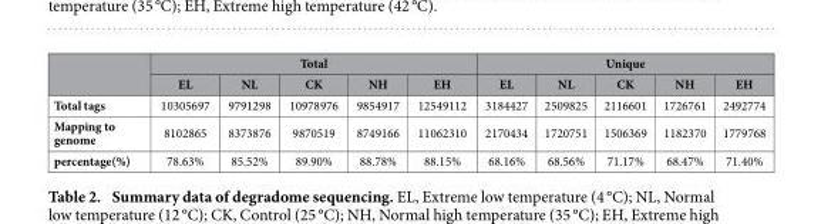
<table><thead><tr><td rowspan="2"></td><td colspan="5">Total</td><td colspan="5">Unique</td></tr><tr><td>EL</td><td>NL</td><td>CK</td><td>NH</td><td>EH</td><td>EL</td><td>NL</td><td>CK</td><td>NH</td><td>EH</td></tr></thead><tbody><tr><td>Total tags</td><td>10305697</td><td>9791298</td><td>10978976</td><td>9854917</td><td>12549112</td><td>3184427</td><td>2509825</td><td>2116601</td><td>1726761</td><td>2492774</td></tr><tr><td>Mapping to genome</td><td>8102865</td><td>8373876</td><td>9870519</td><td>8749166</td><td>11062310</td><td>2170434</td><td>1720751</td><td>1506369</td><td>1182370</td><td>1779768</td></tr><tr><td>percentage(%)</td><td>78.63%</td><td>85.52%</td><td>89.90%</td><td>88.78%</td><td>88.15%</td><td>68.16%</td><td>68.56%</td><td>71.17%</td><td>68.47%</td><td>71.40%</td></tr></tbody></table>